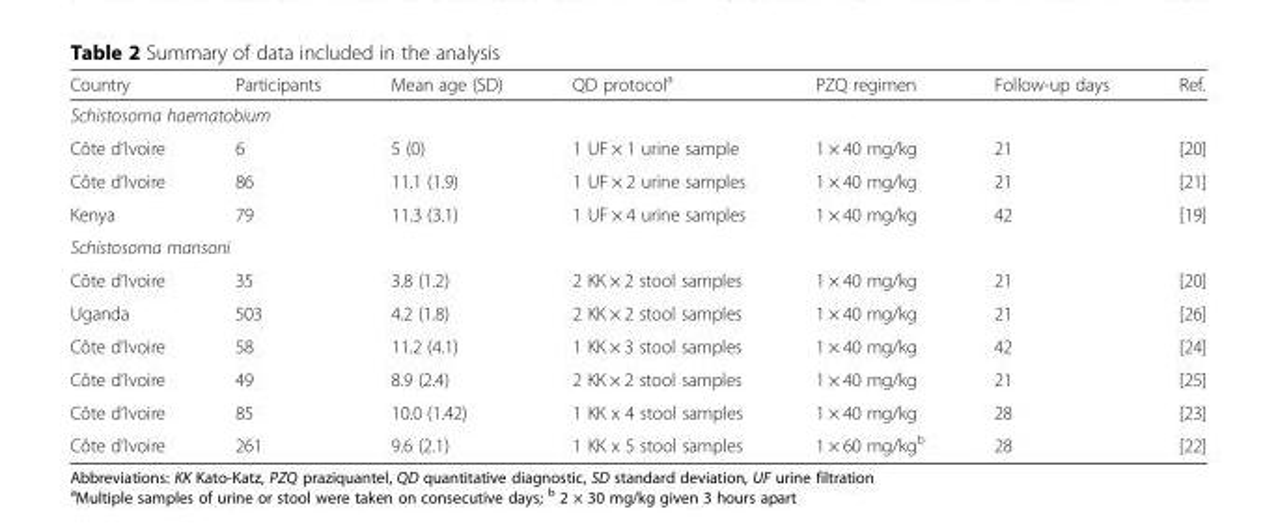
<table><thead><tr><td>Country</td><td>Participants</td><td>Mean age (SD)</td><td>QD protocol<sup>a</sup></td><td>PZQ regimen</td><td>Follow-up days</td><td>Ref.</td></tr></thead><tbody><tr><td colspan="7">Schistosoma haematobium</td></tr><tr><td>Côte d’Ivoire</td><td>6</td><td>5 (0)</td><td>1 UF × 1 urine sample</td><td>1 × 40 mg/kg</td><td>21</td><td>[20]</td></tr><tr><td>Côte d’Ivoire</td><td>86</td><td>11.1 (1.9)</td><td>1 UF × 2 urine samples</td><td>1 × 40 mg/kg</td><td>21</td><td>[21]</td></tr><tr><td>Kenya</td><td>79</td><td>11.3 (3.1)</td><td>1 UF × 4 urine samples</td><td>1 × 40 mg/kg</td><td>42</td><td>[19]</td></tr><tr><td colspan="7">Schistosoma mansoni</td></tr><tr><td>Côte d’Ivoire</td><td>35</td><td>3.8 (1.2)</td><td>2 KK × 2 stool samples</td><td>1 × 40 mg/kg</td><td>21</td><td>[20]</td></tr><tr><td>Uganda</td><td>503</td><td>4.2 (1.8)</td><td>2 KK × 2 stool samples</td><td>1 × 40 mg/kg</td><td>21</td><td>[26]</td></tr><tr><td>Côte d’Ivoire</td><td>58</td><td>11.2 (4.1)</td><td>1 KK × 3 stool samples</td><td>1 × 40 mg/kg</td><td>42</td><td>[24]</td></tr><tr><td>Côte d’Ivoire</td><td>49</td><td>8.9 (2.4)</td><td>2 KK × 2 stool samples</td><td>1 × 40 mg/kg</td><td>21</td><td>[25]</td></tr><tr><td>Côte d’Ivoire</td><td>85</td><td>10.0 (1.42)</td><td>1 KK x 4 stool samples</td><td>1 × 40 mg/kg</td><td>28</td><td>[23]</td></tr><tr><td>Côte d’Ivoire</td><td>261</td><td>9.6 (2.1)</td><td>1 KK x 5 stool samples</td><td>1 × 60 mg/kg<sup>b</sup></td><td>28</td><td>[22]</td></tr></tbody></table>